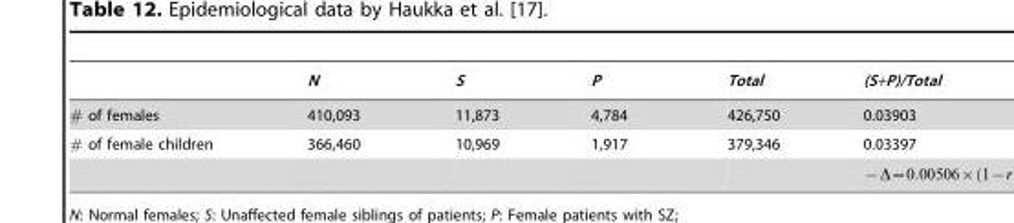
<table><thead><tr><td></td><td>N</td><td>S</td><td>P</td><td>Total</td><td>(S+P)/Total</td></tr></thead><tbody><tr><td># of females</td><td>410,093</td><td>11,873</td><td>4,784</td><td>426,750</td><td>0.03903</td></tr><tr><td># of female children</td><td>366,460</td><td>10,969</td><td>1,917</td><td>379,346</td><td>0.03397</td></tr></tbody></table>